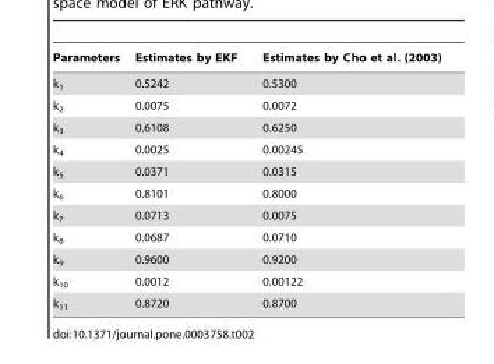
<table><thead><tr><td>Parameters</td><td>Estimates by EKF</td><td>Estimates by Cho et al. (2003)</td></tr></thead><tbody><tr><td>k<sub>1</sub></td><td>0.5242</td><td>0.5300</td></tr><tr><td>k<sub>2</sub></td><td>0.0075</td><td>0.0072</td></tr><tr><td>k<sub>3</sub></td><td>0.6108</td><td>0.6250</td></tr><tr><td>k<sub>4</sub></td><td>0.0025</td><td>0.00245</td></tr><tr><td>k<sub>5</sub></td><td>0.0371</td><td>0.0315</td></tr><tr><td>k<sub>6</sub></td><td>0.8101</td><td>0.8000</td></tr><tr><td>k<sub>7</sub></td><td>0.0713</td><td>0.0075</td></tr><tr><td>k<sub>8</sub></td><td>0.0687</td><td>0.0710</td></tr><tr><td>k<sub>9</sub></td><td>0.9600</td><td>0.9200</td></tr><tr><td>k<sub>10</sub></td><td>0.0012</td><td>0.00122</td></tr><tr><td>k<sub>11</sub></td><td>0.8720</td><td>0.8700</td></tr></tbody></table>